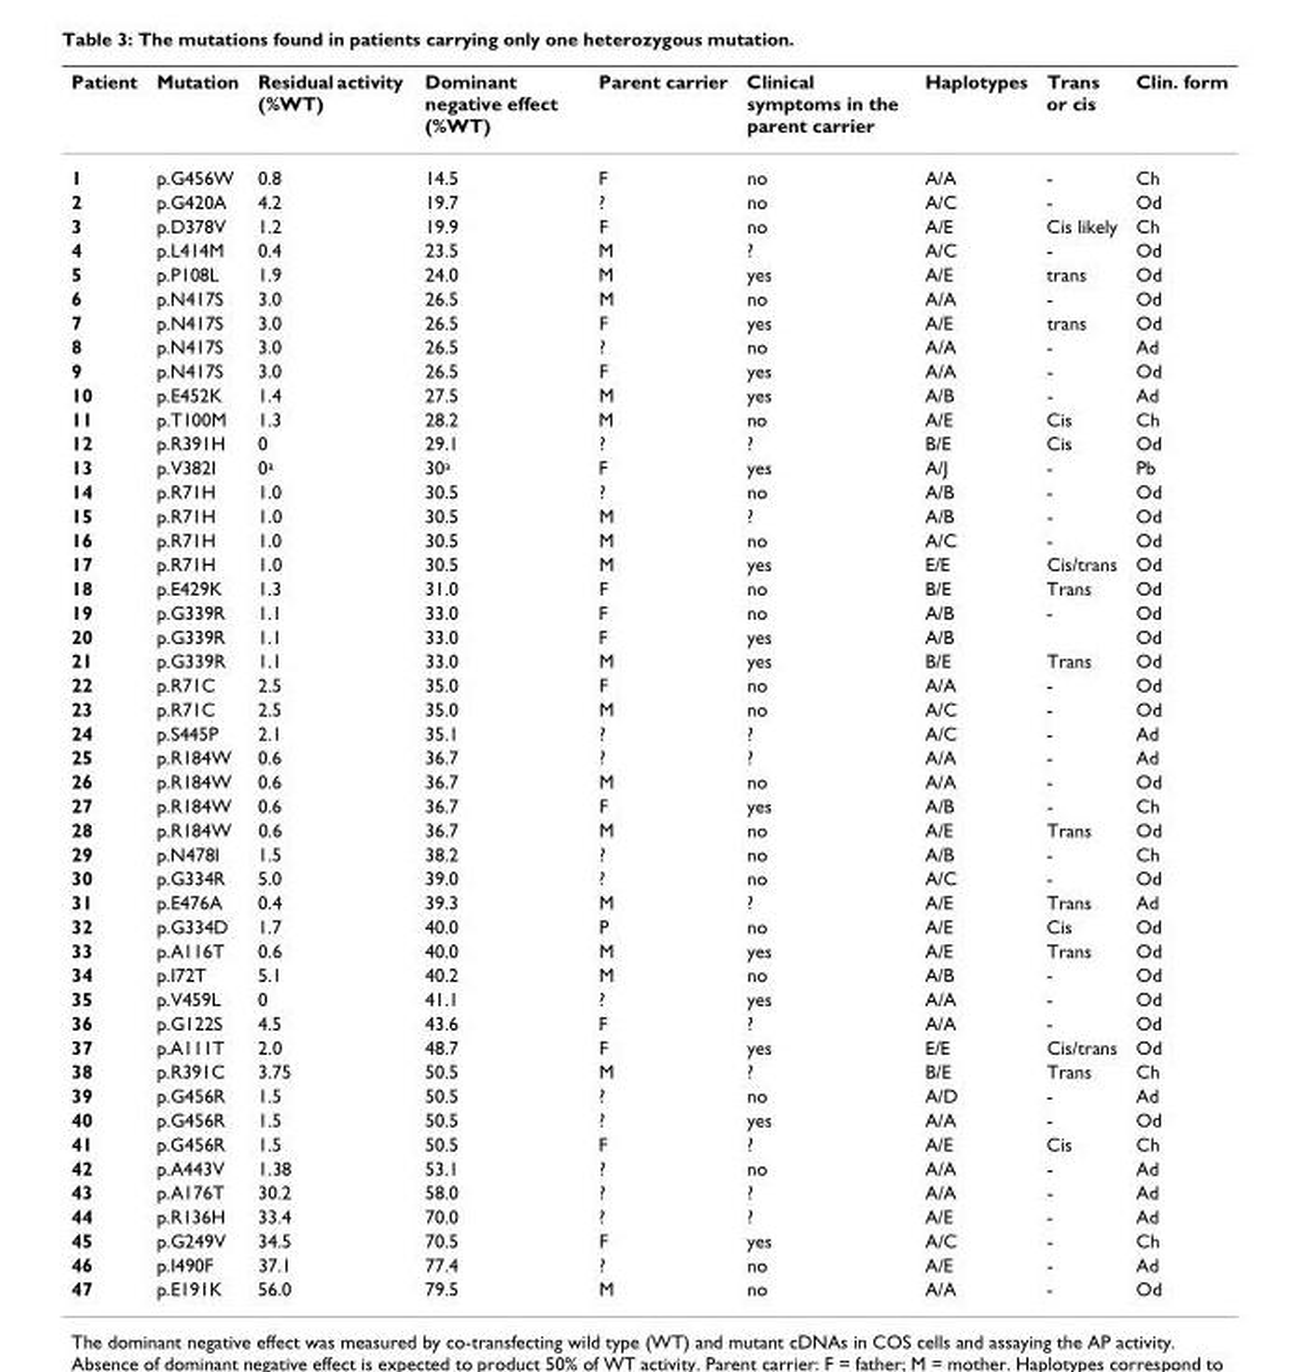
<table><thead><tr><td>Patient</td><td>Mutation</td><td>Residual activity (%WT)</td><td>Dominant negative effect (%WT)</td><td>Parent carrier</td><td>Clinical symptoms in the parent carrier</td><td>Haplotypes</td><td>Trans or cis</td><td>Clin. form</td></tr></thead><tbody><tr><td>1</td><td>p.G456W</td><td>0.8</td><td>14.5</td><td>F</td><td>no</td><td>A/A</td><td>-</td><td>Ch</td></tr><tr><td>2</td><td>p.G420A</td><td>4.2</td><td>19.7</td><td>?</td><td>no</td><td>A/C</td><td>-</td><td>Od</td></tr><tr><td>3</td><td>p.D378V</td><td>1.2</td><td>19.9</td><td>F</td><td>no</td><td>A/E</td><td>Cis likely</td><td>Ch</td></tr><tr><td>4</td><td>p.L414M</td><td>0.4</td><td>23.5</td><td>M</td><td>?</td><td>A/C</td><td>-</td><td>Od</td></tr><tr><td>5</td><td>p.P108L</td><td>1.9</td><td>24.0</td><td>M</td><td>yes</td><td>A/E</td><td>trans</td><td>Od</td></tr><tr><td>6</td><td>p.N417S</td><td>3.0</td><td>26.5</td><td>M</td><td>no</td><td>A/A</td><td>-</td><td>Od</td></tr><tr><td>7</td><td>p.N417S</td><td>3.0</td><td>26.5</td><td>F</td><td>yes</td><td>A/E</td><td>trans</td><td>Od</td></tr><tr><td>8</td><td>p.N417S</td><td>3.0</td><td>26.5</td><td>?</td><td>no</td><td>A/A</td><td>-</td><td>Ad</td></tr><tr><td>9</td><td>p.N417S</td><td>3.0</td><td>26.5</td><td>F</td><td>yes</td><td>A/A</td><td>-</td><td>Od</td></tr><tr><td>10</td><td>p.E452K</td><td>1.4</td><td>27.5</td><td>M</td><td>yes</td><td>A/B</td><td>-</td><td>Ad</td></tr><tr><td>11</td><td>p.T100M</td><td>1.3</td><td>28.2</td><td>M</td><td>no</td><td>A/E</td><td>Cis</td><td>Ch</td></tr><tr><td>12</td><td>p.R391H</td><td>0</td><td>29.1</td><td>?</td><td>?</td><td>B/E</td><td>Cis</td><td>Od</td></tr><tr><td>13</td><td>p.V382I</td><td>0<sup>a</sup></td><td>30<sup>a</sup></td><td>F</td><td>yes</td><td>A/J</td><td>-</td><td>Pb</td></tr><tr><td>14</td><td>p.R71H</td><td>1.0</td><td>30.5</td><td>?</td><td>no</td><td>A/B</td><td>-</td><td>Od</td></tr><tr><td>15</td><td>p.R71H</td><td>1.0</td><td>30.5</td><td>M</td><td>?</td><td>A/B</td><td>-</td><td>Od</td></tr><tr><td>16</td><td>p.R71H</td><td>1.0</td><td>30.5</td><td>M</td><td>no</td><td>A/C</td><td>-</td><td>Od</td></tr><tr><td>17</td><td>p.R71H</td><td>1.0</td><td>30.5</td><td>M</td><td>yes</td><td>E/E</td><td>Cis/trans</td><td>Od</td></tr><tr><td>18</td><td>p.E429K</td><td>1.3</td><td>31.0</td><td>F</td><td>no</td><td>B/E</td><td>Trans</td><td>Od</td></tr><tr><td>19</td><td>p.G339R</td><td>1.1</td><td>33.0</td><td>F</td><td>no</td><td>A/B</td><td>-</td><td>Od</td></tr><tr><td>20</td><td>p.G339R</td><td>1.1</td><td>33.0</td><td>F</td><td>yes</td><td>A/B</td><td></td><td>Od</td></tr><tr><td>21</td><td>p.G339R</td><td>1.1</td><td>33.0</td><td>M</td><td>yes</td><td>B/E</td><td>Trans</td><td>Od</td></tr><tr><td>22</td><td>p.R71C</td><td>2.5</td><td>35.0</td><td>F</td><td>no</td><td>A/A</td><td>-</td><td>Od</td></tr><tr><td>23</td><td>p.R71C</td><td>2.5</td><td>35.0</td><td>M</td><td>no</td><td>A/C</td><td>-</td><td>Od</td></tr><tr><td>24</td><td>p.S445P</td><td>2.1</td><td>35.1</td><td>?</td><td>?</td><td>A/C</td><td>-</td><td>Ad</td></tr><tr><td>25</td><td>p.R184W</td><td>0.6</td><td>36.7</td><td>?</td><td>?</td><td>A/A</td><td>-</td><td>Ad</td></tr><tr><td>26</td><td>p.R184W</td><td>0.6</td><td>36.7</td><td>M</td><td>no</td><td>A/A</td><td>-</td><td>Od</td></tr><tr><td>27</td><td>p.R184W</td><td>0.6</td><td>36.7</td><td>F</td><td>yes</td><td>A/B</td><td>-</td><td>Ch</td></tr><tr><td>28</td><td>p.R184W</td><td>0.6</td><td>36.7</td><td>M</td><td>no</td><td>A/E</td><td>Trans</td><td>Od</td></tr><tr><td>29</td><td>p.N478I</td><td>1.5</td><td>38.2</td><td>?</td><td>no</td><td>A/B</td><td>-</td><td>Ch</td></tr><tr><td>30</td><td>p.G334R</td><td>5.0</td><td>39.0</td><td>?</td><td>no</td><td>A/C</td><td>-</td><td>Od</td></tr><tr><td>31</td><td>p.E476A</td><td>0.4</td><td>39.3</td><td>M</td><td>?</td><td>A/E</td><td>Trans</td><td>Ad</td></tr><tr><td>32</td><td>p.G334D</td><td>1.7</td><td>40.0</td><td>P</td><td>no</td><td>A/E</td><td>Cis</td><td>Od</td></tr><tr><td>33</td><td>p.A116T</td><td>0.6</td><td>40.0</td><td>M</td><td>yes</td><td>A/E</td><td>Trans</td><td>Od</td></tr><tr><td>34</td><td>p.I72T</td><td>5.1</td><td>40.2</td><td>M</td><td>no</td><td>A/B</td><td>-</td><td>Od</td></tr><tr><td>35</td><td>p.V459L</td><td>0</td><td>41.1</td><td>?</td><td>yes</td><td>A/A</td><td>-</td><td>Od</td></tr><tr><td>36</td><td>p.G122S</td><td>4.5</td><td>43.6</td><td>F</td><td>?</td><td>A/A</td><td>-</td><td>Od</td></tr><tr><td>37</td><td>p.A111T</td><td>2.0</td><td>48.7</td><td>F</td><td>yes</td><td>E/E</td><td>Cis/trans</td><td>Od</td></tr><tr><td>38</td><td>p.R391C</td><td>3.75</td><td>50.5</td><td>M</td><td>?</td><td>B/E</td><td>Trans</td><td>Ch</td></tr><tr><td>39</td><td>p.G456R</td><td>1.5</td><td>50.5</td><td>?</td><td>no</td><td>A/D</td><td>-</td><td>Ad</td></tr><tr><td>40</td><td>p.G456R</td><td>1.5</td><td>50.5</td><td>?</td><td>yes</td><td>A/A</td><td>-</td><td>Od</td></tr><tr><td>41</td><td>p.G456R</td><td>1.5</td><td>50.5</td><td>F</td><td>?</td><td>A/E</td><td>Cis</td><td>Ch</td></tr><tr><td>42</td><td>p.A443V</td><td>1.38</td><td>53.1</td><td>?</td><td>no</td><td>A/A</td><td>-</td><td>Ad</td></tr><tr><td>43</td><td>p.A176T</td><td>30.2</td><td>58.0</td><td>?</td><td>?</td><td>A/A</td><td>-</td><td>Ad</td></tr><tr><td>44</td><td>p.R136H</td><td>33.4</td><td>70.0</td><td>?</td><td>?</td><td>A/E</td><td>-</td><td>Ad</td></tr><tr><td>45</td><td>p.G249V</td><td>34.5</td><td>70.5</td><td>F</td><td>yes</td><td>A/C</td><td>-</td><td>Ch</td></tr><tr><td>46</td><td>p.I490F</td><td>37.1</td><td>77.4</td><td>?</td><td>no</td><td>A/E</td><td>-</td><td>Ad</td></tr><tr><td>47</td><td>p.E191K</td><td>56.0</td><td>79.5</td><td>M</td><td>no</td><td>A/A</td><td>-</td><td>Od</td></tr></tbody></table>